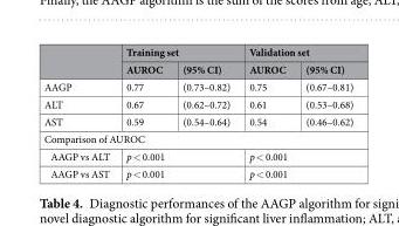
<table><thead><tr><td rowspan="2"></td><td colspan="2">Training set</td><td colspan="2">Validation set</td></tr><tr><td>AUROC</td><td>(95% CI)</td><td>AUROC</td><td>(95% CI)</td></tr></thead><tbody><tr><td>AAGP</td><td>0.77</td><td>(0.73–0.82)</td><td>0.75</td><td>(0.67–0.81)</td></tr><tr><td>ALT</td><td>0.67</td><td>(0.62–0.72)</td><td>0.61</td><td>(0.53–0.68)</td></tr><tr><td>AST</td><td>0.59</td><td>(0.54–0.64)</td><td>0.54</td><td>(0.46–0.62)</td></tr><tr><td colspan="5">Comparison of AUROC</td></tr><tr><td>AAGP vs ALT</td><td colspan="2">p &lt; 0.001</td><td colspan="2">p &lt; 0.001</td></tr><tr><td>AAGP vs AST</td><td colspan="2">p &lt; 0.001</td><td colspan="2">p &lt; 0.001</td></tr></tbody></table>